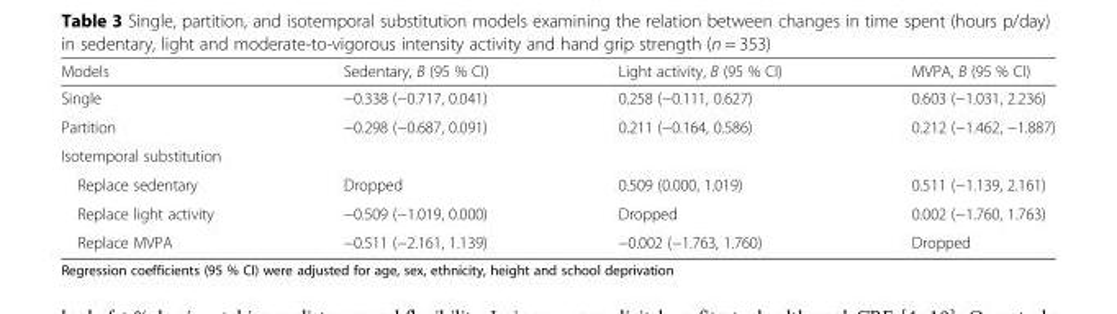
<table><thead><tr><td>Models</td><td>Sedentary, B (95 % CI)</td><td>Light activity, B (95 % CI)</td><td>MVPA, B (95 % CI)</td></tr></thead><tbody><tr><td>Single</td><td>−0.338 (−0.717, 0.041)</td><td>0.258 (−0.111, 0.627)</td><td>0.603 (−1.031, 2.236)</td></tr><tr><td>Partition</td><td>−0.298 (−0.687, 0.091)</td><td>0.211 (−0.164, 0.586)</td><td>0.212 (−1.462, −1.887)</td></tr><tr><td colspan="4">Isotemporal substitution</td></tr><tr><td>Replace sedentary</td><td>Dropped</td><td>0.509 (0.000, 1.019)</td><td>0.511 (−1.139, 2.161)</td></tr><tr><td>Replace light activity</td><td>−0.509 (−1.019, 0.000)</td><td>Dropped</td><td>0.002 (−1.760, 1.763)</td></tr><tr><td>Replace MVPA</td><td>−0.511 (−2.161, 1.139)</td><td>−0.002 (−1.763, 1.760)</td><td>Dropped</td></tr></tbody></table>